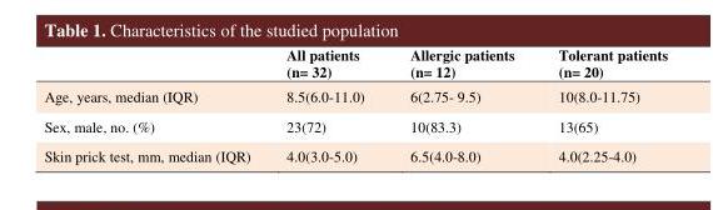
<table><thead><tr><td></td><td>All patients (n= 32)</td><td>Allergic patients (n= 12)</td><td>Tolerant patients (n= 20)</td></tr></thead><tbody><tr><td>Age, years, median (IQR)</td><td>8.5(6.0-11.0)</td><td>6(2.75- 9.5)</td><td>10(8.0-11.75)</td></tr><tr><td>Sex, male, no. (%)</td><td>23(72)</td><td>10(83.3)</td><td>13(65)</td></tr><tr><td>Skin prick test, mm, median (IQR)</td><td>4.0(3.0-5.0)</td><td>6.5(4.0-8.0)</td><td>4.0(2.25-4.0)</td></tr></tbody></table>